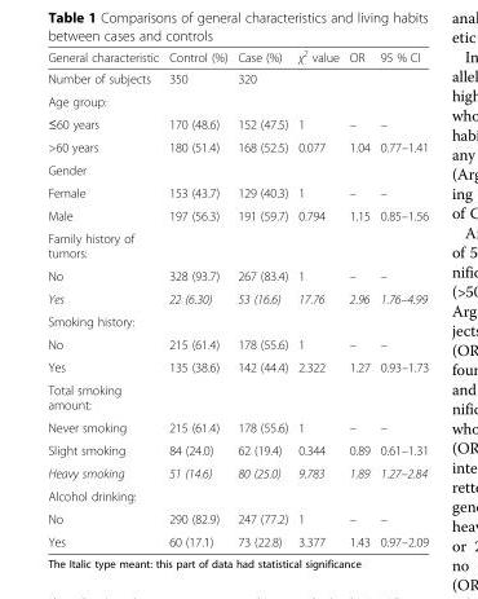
<table><thead><tr><td>General characteristic</td><td>Control (%)</td><td>Case (%)</td><td>χ<sup>2</sup> value</td><td>OR</td><td>95 % CI</td></tr></thead><tbody><tr><td>Number of subjects</td><td>350</td><td>320</td><td></td><td></td><td></td></tr><tr><td colspan="6">Age group:</td></tr><tr><td>≤60 years</td><td>170 (48.6)</td><td>152 (47.5)</td><td>1</td><td>–</td><td>–</td></tr><tr><td>&gt;60 years</td><td>180 (51.4)</td><td>168 (52.5)</td><td>0.077</td><td>1.04</td><td>0.77–1.41</td></tr><tr><td colspan="6">Gender</td></tr><tr><td>Female</td><td>153 (43.7)</td><td>129 (40.3)</td><td>1</td><td>–</td><td>–</td></tr><tr><td>Male</td><td>197 (56.3)</td><td>191 (59.7)</td><td>0.794</td><td>1.15</td><td>0.85–1.56</td></tr><tr><td colspan="6">Family history of tumors:</td></tr><tr><td>No</td><td>328 (93.7)</td><td>267 (83.4)</td><td>1</td><td>–</td><td>–</td></tr><tr><td>Yes</td><td>22 (6.30)</td><td>53 (16.6)</td><td>17.76</td><td>2.96</td><td>1.76–4.99</td></tr><tr><td colspan="6">Smoking history:</td></tr><tr><td>No</td><td>215 (61.4)</td><td>178 (55.6)</td><td>1</td><td>–</td><td>–</td></tr><tr><td>Yes</td><td>135 (38.6)</td><td>142 (44.4)</td><td>2.322</td><td>1.27</td><td>0.93–1.73</td></tr><tr><td colspan="6">Total smoking amount:</td></tr><tr><td>Never smoking</td><td>215 (61.4)</td><td>178 (55.6)</td><td>1</td><td>–</td><td>–</td></tr><tr><td>Slight smoking</td><td>84 (24.0)</td><td>62 (19.4)</td><td>0.344</td><td>0.89</td><td>0.61–1.31</td></tr><tr><td>Heavy smoking</td><td>51 (14.6)</td><td>80 (25.0)</td><td>9.783</td><td>1.89</td><td>1.27–2.84</td></tr><tr><td colspan="6">Alcohol drinking:</td></tr><tr><td>No</td><td>290 (82.9)</td><td>247 (77.2)</td><td>1</td><td>–</td><td>–</td></tr><tr><td>Yes</td><td>60 (17.1)</td><td>73 (22.8)</td><td>3.377</td><td>1.43</td><td>0.97–2.09</td></tr></tbody></table>